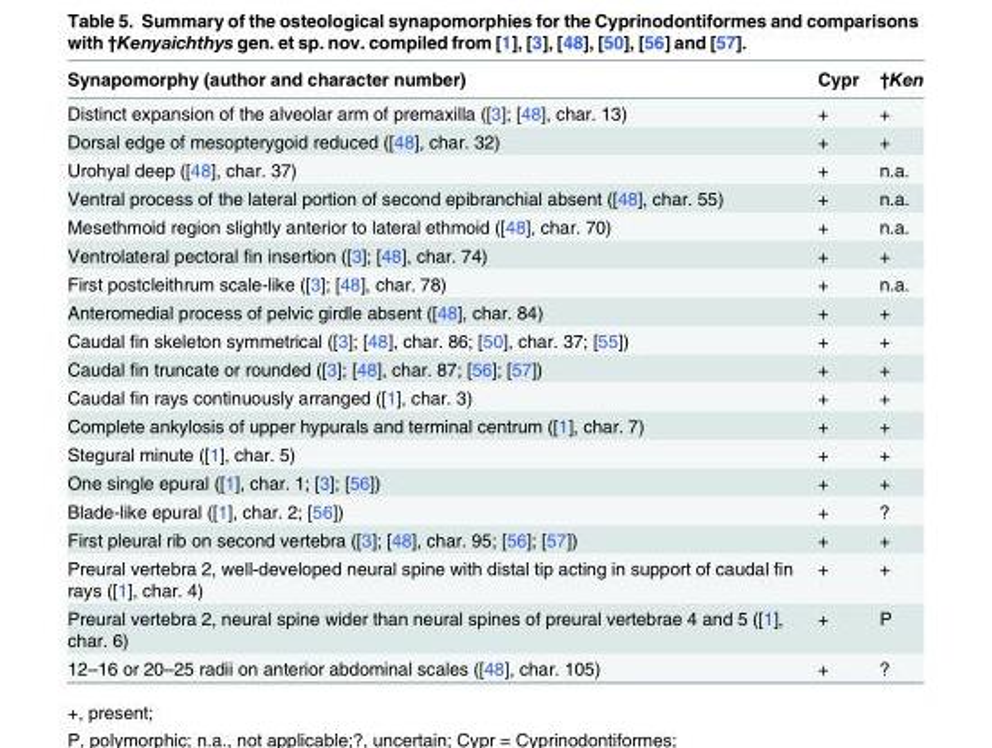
<table><thead><tr><td>Synapomorphy (author and character number)</td><td>Cypr</td><td>†Ken</td></tr></thead><tbody><tr><td>Distinct expansion of the alveolar arm of premaxilla ([3]; [48], char. 13)</td><td>+</td><td>+</td></tr><tr><td>Dorsal edge of mesopterygoid reduced ([48], char. 32)</td><td>+</td><td>+</td></tr><tr><td>Urohyal deep ([48], char. 37)</td><td>+</td><td>n.a.</td></tr><tr><td>Ventral process of the lateral portion of second epibranchial absent ([48], char. 55)</td><td>+</td><td>n.a.</td></tr><tr><td>Mesethmoid region slightly anterior to lateral ethmoid ([48], char. 70)</td><td>+</td><td>n.a.</td></tr><tr><td>Ventrolateral pectoral fin insertion ([3]; [48], char. 74)</td><td>+</td><td>+</td></tr><tr><td>First postcleithrum scale-like ([3]; [48], char. 78)</td><td>+</td><td>n.a.</td></tr><tr><td>Anteromedial process of pelvic girdle absent ([48], char. 84)</td><td>+</td><td>+</td></tr><tr><td>Caudal fin skeleton symmetrical ([3]; [48], char. 86; [50], char. 37; [55])</td><td>+</td><td>+</td></tr><tr><td>Caudal fin truncate or rounded ([3]; [48], char. 87; [56]; [57])</td><td>+</td><td>+</td></tr><tr><td>Caudal fin rays continuously arranged ([1], char. 3)</td><td>+</td><td>+</td></tr><tr><td>Complete ankylosis of upper hypurals and terminal centrum ([1], char. 7)</td><td>+</td><td>+</td></tr><tr><td>Stegural minute ([1], char. 5)</td><td>+</td><td>+</td></tr><tr><td>One single epural ([1], char. 1; [3]; [56])</td><td>+</td><td>+</td></tr><tr><td>Blade-like epural ([1], char. 2; [56])</td><td>+</td><td>?</td></tr><tr><td>First pleural rib on second vertebra ([3]; [48], char. 95; [56]; [57])</td><td>+</td><td>+</td></tr><tr><td>Preural vertebra 2, well-developed neural spine with distal tip acting in support of caudal fin rays ([1], char. 4)</td><td>+</td><td>+</td></tr><tr><td>Preural vertebra 2, neural spine wider than neural spines of preural vertebrae 4 and 5 ([1], char. 6)</td><td>+</td><td>P</td></tr><tr><td>12–16 or 20–25 radii on anterior abdominal scales ([48], char. 105)</td><td>+</td><td>?</td></tr></tbody></table>